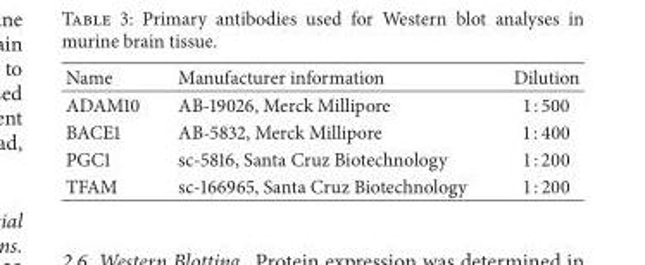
<table><thead><tr><td>Name</td><td>Manufacturer information</td><td>Dilution</td></tr></thead><tbody><tr><td>ADAM10</td><td>AB-19026, Merck Millipore</td><td>1 : 500</td></tr><tr><td>BACE1</td><td>AB-5832, Merck Millipore</td><td>1 : 400</td></tr><tr><td>PGC1</td><td>sc-5816, Santa Cruz Biotechnology</td><td>1 : 200</td></tr><tr><td>TFAM</td><td>sc-166965, Santa Cruz Biotechnology</td><td>1 : 200</td></tr></tbody></table>